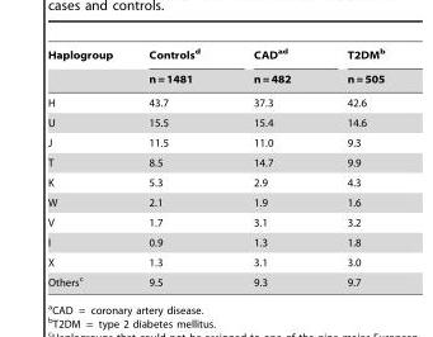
<table><thead><tr><td rowspan="2">Haplogroup</td><td rowspan="2">Controls<sup>d</sup> n = 1481</td><td rowspan="2">CAD<sup>ad</sup> n = 482</td><td rowspan="2">T2DM<sup>b</sup> n = 505</td></tr><tr></tr></thead><tbody><tr><td>H</td><td>43.7</td><td>37.3</td><td>42.6</td></tr><tr><td>U</td><td>15.5</td><td>15.4</td><td>14.6</td></tr><tr><td>J</td><td>11.5</td><td>11.0</td><td>9.3</td></tr><tr><td>T</td><td>8.5</td><td>14.7</td><td>9.9</td></tr><tr><td>K</td><td>5.3</td><td>2.9</td><td>4.3</td></tr><tr><td>W</td><td>2.1</td><td>1.9</td><td>1.6</td></tr><tr><td>V</td><td>1.7</td><td>3.1</td><td>3.2</td></tr><tr><td>I</td><td>0.9</td><td>1.3</td><td>1.8</td></tr><tr><td>X</td><td>1.3</td><td>3.1</td><td>3.0</td></tr><tr><td>Others<sup>c</sup></td><td>9.5</td><td>9.3</td><td>9.7</td></tr></tbody></table>